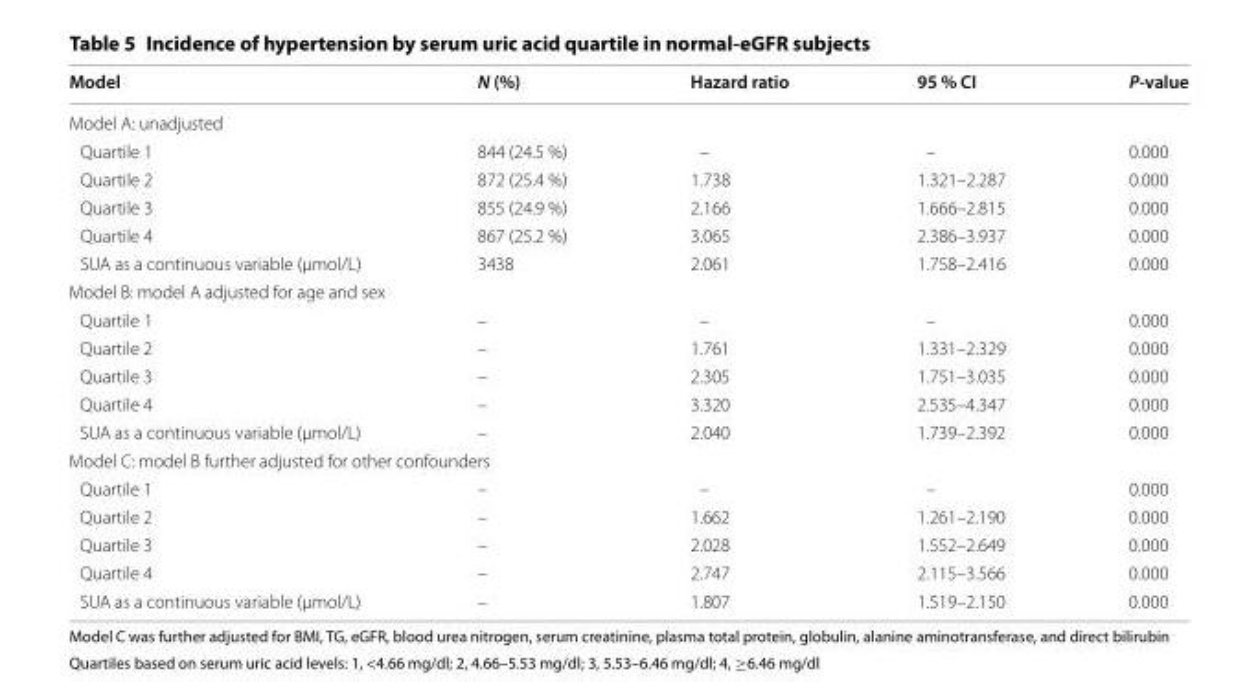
<table><thead><tr><td>Model</td><td>N (%)</td><td>Hazard ratio</td><td>95 % CI</td><td>P-value</td></tr></thead><tbody><tr><td colspan="5">Model A: unadjusted</td></tr><tr><td>Quartile 1</td><td>844 (24.5 %)</td><td>–</td><td>–</td><td>0.000</td></tr><tr><td>Quartile 2</td><td>872 (25.4 %)</td><td>1.738</td><td>1.321–2.287</td><td>0.000</td></tr><tr><td>Quartile 3</td><td>855 (24.9 %)</td><td>2.166</td><td>1.666–2.815</td><td>0.000</td></tr><tr><td>Quartile 4</td><td>867 (25.2 %)</td><td>3.065</td><td>2.386–3.937</td><td>0.000</td></tr><tr><td>SUA as a continuous variable (μmol/L)</td><td>3438</td><td>2.061</td><td>1.758–2.416</td><td>0.000</td></tr><tr><td colspan="5">Model B: model A adjusted for age and sex</td></tr><tr><td>Quartile 1</td><td>–</td><td>–</td><td>–</td><td>0.000</td></tr><tr><td>Quartile 2</td><td>–</td><td>1.761</td><td>1.331–2.329</td><td>0.000</td></tr><tr><td>Quartile 3</td><td>–</td><td>2.305</td><td>1.751–3.035</td><td>0.000</td></tr><tr><td>Quartile 4</td><td>–</td><td>3.320</td><td>2.535–4.347</td><td>0.000</td></tr><tr><td>SUA as a continuous variable (μmol/L)</td><td>–</td><td>2.040</td><td>1.739–2.392</td><td>0.000</td></tr><tr><td colspan="5">Model C: model B further adjusted for other confounders</td></tr><tr><td>Quartile 1</td><td>–</td><td>–</td><td>–</td><td>0.000</td></tr><tr><td>Quartile 2</td><td>–</td><td>1.662</td><td>1.261–2.190</td><td>0.000</td></tr><tr><td>Quartile 3</td><td>–</td><td>2.028</td><td>1.552–2.649</td><td>0.000</td></tr><tr><td>Quartile 4</td><td>–</td><td>2.747</td><td>2.115–3.566</td><td>0.000</td></tr><tr><td>SUA as a continuous variable (μmol/L)</td><td>–</td><td>1.807</td><td>1.519–2.150</td><td>0.000</td></tr></tbody></table>